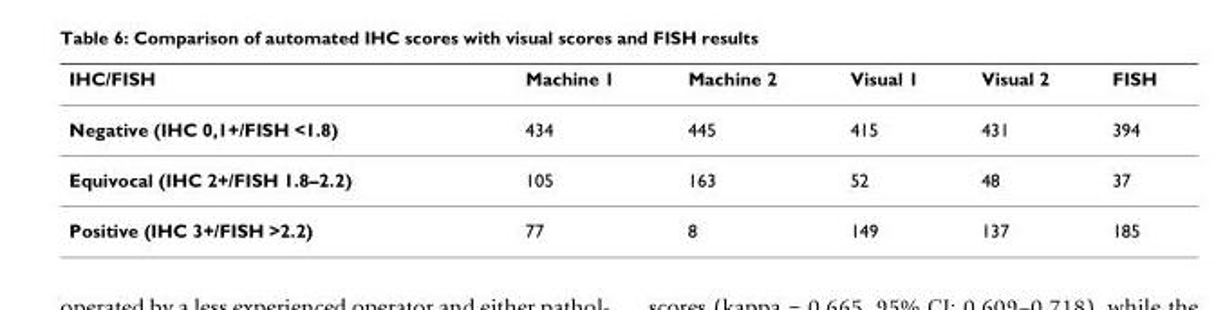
<table><thead><tr><td>IHC/FISH</td><td>Machine 1</td><td>Machine 2</td><td>Visual 1</td><td>Visual 2</td><td>FISH</td></tr></thead><tbody><tr><td>Negative (IHC 0,1+/FISH &lt;1.8)</td><td>434</td><td>445</td><td>415</td><td>431</td><td>394</td></tr><tr><td>Equivocal (IHC 2+/FISH 1.8–2.2)</td><td>105</td><td>163</td><td>52</td><td>48</td><td>37</td></tr><tr><td>Positive (IHC 3+/FISH &gt;2.2)</td><td>77</td><td>8</td><td>149</td><td>137</td><td>185</td></tr></tbody></table>